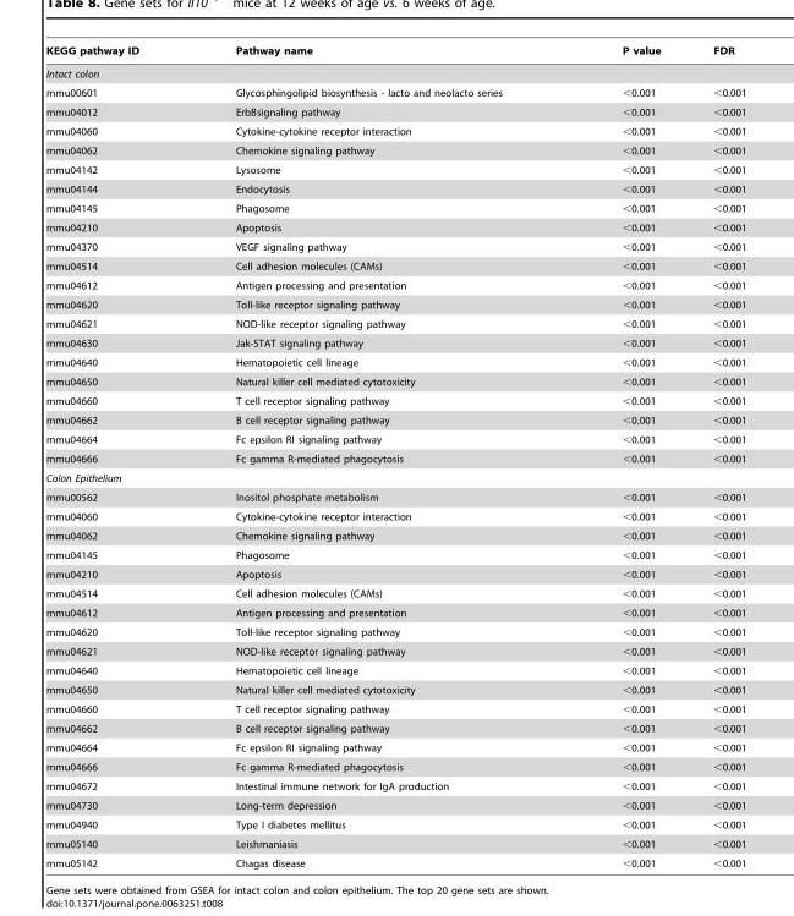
<table><thead><tr><td>KEGG pathway ID</td><td>Pathway name</td><td>P value</td><td>FDR</td></tr></thead><tbody><tr><td colspan="4">Intact colon</td></tr><tr><td>mmu00601</td><td>Glycosphingolipid biosynthesis - lacto and neolacto series</td><td>&lt;0.001</td><td>&lt;0.001</td></tr><tr><td>mmu04012</td><td>ErbBsignaling pathway</td><td>&lt;0.001</td><td>&lt;0.001</td></tr><tr><td>mmu04060</td><td>Cytokine-cytokine receptor interaction</td><td>&lt;0.001</td><td>&lt;0.001</td></tr><tr><td>mmu04062</td><td>Chemokine signaling pathway</td><td>&lt;0.001</td><td>&lt;0.001</td></tr><tr><td>mmu04142</td><td>Lysosome</td><td>&lt;0.001</td><td>&lt;0.001</td></tr><tr><td>mmu04144</td><td>Endocytosis</td><td>&lt;0.001</td><td>&lt;0.001</td></tr><tr><td>mmu04145</td><td>Phagosome</td><td>&lt;0.001</td><td>&lt;0.001</td></tr><tr><td>mmu04210</td><td>Apoptosis</td><td>&lt;0.001</td><td>&lt;0.001</td></tr><tr><td>mmu04370</td><td>VEGF signaling pathway</td><td>&lt;0.001</td><td>&lt;0.001</td></tr><tr><td>mmu04514</td><td>Cell adhesion molecules (CAMs)</td><td>&lt;0.001</td><td>&lt;0.001</td></tr><tr><td>mmu04612</td><td>Antigen processing and presentation</td><td>&lt;0.001</td><td>&lt;0.001</td></tr><tr><td>mmu04620</td><td>Toll-like receptor signaling pathway</td><td>&lt;0.001</td><td>&lt;0.001</td></tr><tr><td>mmu04621</td><td>NOD-like receptor signaling pathway</td><td>&lt;0.001</td><td>&lt;0.001</td></tr><tr><td>mmu04630</td><td>Jak-STAT signaling pathway</td><td>&lt;0.001</td><td>&lt;0.001</td></tr><tr><td>mmu04640</td><td>Hematopoietic cell lineage</td><td>&lt;0.001</td><td>&lt;0.001</td></tr><tr><td>mmu04650</td><td>Natural killer cell mediated cytotoxicity</td><td>&lt;0.001</td><td>&lt;0.001</td></tr><tr><td>mmu04660</td><td>T cell receptor signaling pathway</td><td>&lt;0.001</td><td>&lt;0.001</td></tr><tr><td>mmu04662</td><td>B cell receptor signaling pathway</td><td>&lt;0.001</td><td>&lt;0.001</td></tr><tr><td>mmu04664</td><td>Fc epsilon RI signaling pathway</td><td>&lt;0.001</td><td>&lt;0.001</td></tr><tr><td>mmu04666</td><td>Fc gamma R-mediated phagocytosis</td><td>&lt;0.001</td><td>&lt;0.001</td></tr><tr><td colspan="4">Colon Epithelium</td></tr><tr><td>mmu00562</td><td>Inositol phosphate metabolism</td><td>&lt;0.001</td><td>&lt;0.001</td></tr><tr><td>mmu04060</td><td>Cytokine-cytokine receptor interaction</td><td>&lt;0.001</td><td>&lt;0.001</td></tr><tr><td>mmu04062</td><td>Chemokine signaling pathway</td><td>&lt;0.001</td><td>&lt;0.001</td></tr><tr><td>mmu04145</td><td>Phagosome</td><td>&lt;0.001</td><td>&lt;0.001</td></tr><tr><td>mmu04210</td><td>Apoptosis</td><td>&lt;0.001</td><td>&lt;0.001</td></tr><tr><td>mmu04514</td><td>Cell adhesion molecules (CAMs)</td><td>&lt;0.001</td><td>&lt;0.001</td></tr><tr><td>mmu04612</td><td>Antigen processing and presentation</td><td>&lt;0.001</td><td>&lt;0.001</td></tr><tr><td>mmu04620</td><td>Toll-like receptor signaling pathway</td><td>&lt;0.001</td><td>&lt;0.001</td></tr><tr><td>mmu04621</td><td>NOD-like receptor signaling pathway</td><td>&lt;0.001</td><td>&lt;0.001</td></tr><tr><td>mmu04640</td><td>Hematopoietic cell lineage</td><td>&lt;0.001</td><td>&lt;0.001</td></tr><tr><td>mmu04650</td><td>Natural killer cell mediated cytotoxicity</td><td>&lt;0.001</td><td>&lt;0.001</td></tr><tr><td>mmu04660</td><td>T cell receptor signaling pathway</td><td>&lt;0.001</td><td>&lt;0.001</td></tr><tr><td>mmu04662</td><td>B cell receptor signaling pathway</td><td>&lt;0.001</td><td>&lt;0.001</td></tr><tr><td>mmu04664</td><td>Fc epsilon RI signaling pathway</td><td>&lt;0.001</td><td>&lt;0.001</td></tr><tr><td>mmu04666</td><td>Fc gamma R-mediated phagocytosis</td><td>&lt;0.001</td><td>&lt;0.001</td></tr><tr><td>mmu04672</td><td>Intestinal immune network for IgA production</td><td>&lt;0.001</td><td>&lt;0.001</td></tr><tr><td>mmu04730</td><td>Long-term depression</td><td>&lt;0.001</td><td>&lt;0.001</td></tr><tr><td>mmu04940</td><td>Type I diabetes mellitus</td><td>&lt;0.001</td><td>&lt;0.001</td></tr><tr><td>mmu05140</td><td>Leishmaniasis</td><td>&lt;0.001</td><td>&lt;0.001</td></tr><tr><td>mmu05142</td><td>Chagas disease</td><td>&lt;0.001</td><td>&lt;0.001</td></tr></tbody></table>